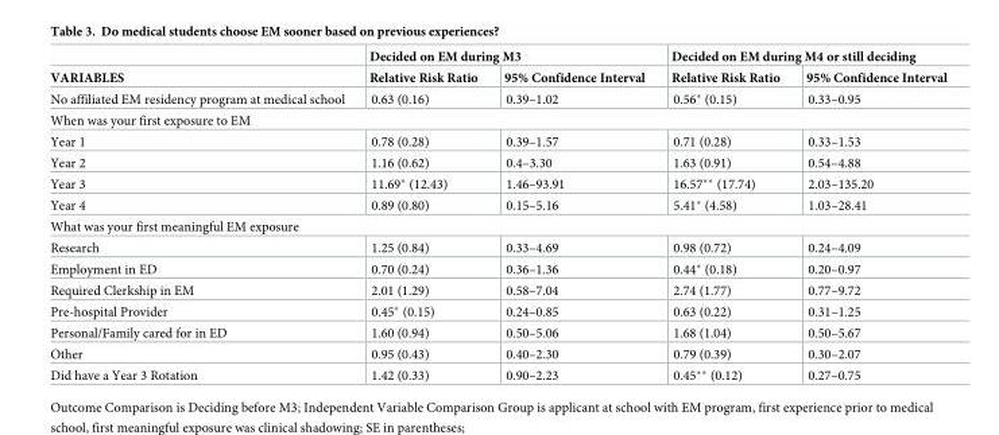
<table><thead><tr><td rowspan="2">VARIABLES</td><td colspan="2">Decided on EM during M3</td><td colspan="2">Decided on EM during M4 or still deciding</td></tr><tr><td>Relative Risk Ratio</td><td>95% Confidence Interval</td><td>Relative Risk Ratio</td><td>95% Confidence Interval</td></tr></thead><tbody><tr><td>No affiliated EM residency program at medical school</td><td>0.63 (0.16)</td><td>0.39–1.02</td><td>0.56* (0.15)</td><td>0.33–0.95</td></tr><tr><td colspan="5">When was your first exposure to EM</td></tr><tr><td>Year 1</td><td>0.78 (0.28)</td><td>0.39–1.57</td><td>0.71 (0.28)</td><td>0.33–1.53</td></tr><tr><td>Year 2</td><td>1.16 (0.62)</td><td>0.4–3.30</td><td>1.63 (0.91)</td><td>0.54–4.88</td></tr><tr><td>Year 3</td><td>11.69* (12.43)</td><td>1.46–93.91</td><td>16.57** (17.74)</td><td>2.03–135.20</td></tr><tr><td>Year 4</td><td>0.89 (0.80)</td><td>0.15–5.16</td><td>5.41* (4.58)</td><td>1.03–28.41</td></tr><tr><td colspan="5">What was your first meaningful EM exposure</td></tr><tr><td>Research</td><td>1.25 (0.84)</td><td>0.33–4.69</td><td>0.98 (0.72)</td><td>0.24–4.09</td></tr><tr><td>Employment in ED</td><td>0.70 (0.24)</td><td>0.36–1.36</td><td>0.44* (0.18)</td><td>0.20–0.97</td></tr><tr><td>Required Clerkship in EM</td><td>2.01 (1.29)</td><td>0.58–7.04</td><td>2.74 (1.77)</td><td>0.77–9.72</td></tr><tr><td>Pre-hospital Provider</td><td>0.45* (0.15)</td><td>0.24–0.85</td><td>0.63 (0.22)</td><td>0.31–1.25</td></tr><tr><td>Personal/Family cared for in ED</td><td>1.60 (0.94)</td><td>0.50–5.06</td><td>1.68 (1.04)</td><td>0.50–5.67</td></tr><tr><td>Other</td><td>0.95 (0.43)</td><td>0.40–2.30</td><td>0.79 (0.39)</td><td>0.30–2.07</td></tr><tr><td>Did have a Year 3 Rotation</td><td>1.42 (0.33)</td><td>0.90–2.23</td><td>0.45** (0.12)</td><td>0.27–0.75</td></tr></tbody></table>